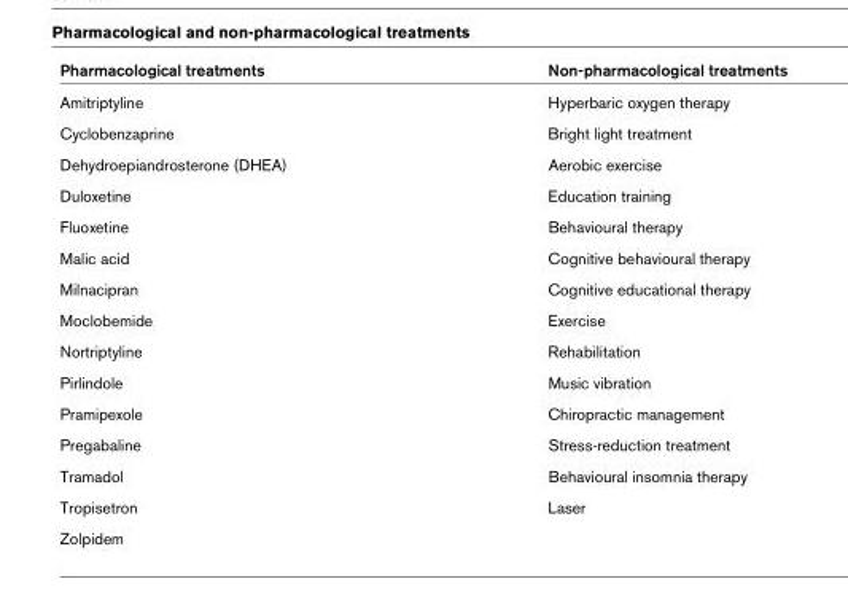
<table><thead><tr><td>Pharmacological treatments</td><td>Non-pharmacological treatments</td></tr></thead><tbody><tr><td>Amitriptyline</td><td>Hyperbaric oxygen therapy</td></tr><tr><td>Cyclobenzaprine</td><td>Bright light treatment</td></tr><tr><td>Dehydroepiandrosterone (DHEA)</td><td>Aerobic exercise</td></tr><tr><td>Duloxetine</td><td>Education training</td></tr><tr><td>Fluoxetine</td><td>Behavioural therapy</td></tr><tr><td>Malic acid</td><td>Cognitive behavioural therapy</td></tr><tr><td>Milnacipran</td><td>Cognitive educational therapy</td></tr><tr><td>Moclobemide</td><td>Exercise</td></tr><tr><td>Nortriptyline</td><td>Rehabilitation</td></tr><tr><td>Pirlindole</td><td>Music vibration</td></tr><tr><td>Pramipexole</td><td>Chiropractic management</td></tr><tr><td>Pregabaline</td><td>Stress-reduction treatment</td></tr><tr><td>Tramadol</td><td>Behavioural insomnia therapy</td></tr><tr><td>Tropisetron</td><td>Laser</td></tr><tr><td>Zolpidem</td><td></td></tr></tbody></table>